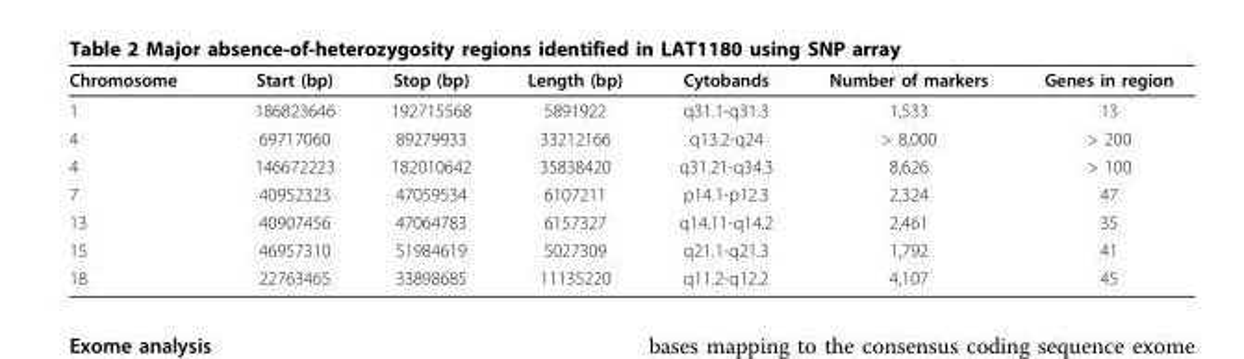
<table><thead><tr><td>Chromosome</td><td>Start (bp)</td><td>Stop (bp)</td><td>Length (bp)</td><td>Cytobands</td><td>Number of markers</td><td>Genes in region</td></tr></thead><tbody><tr><td>1</td><td>186823646</td><td>192715568</td><td>5891922</td><td>q31.1-q31.3</td><td>1,533</td><td>13</td></tr><tr><td>4</td><td>69717060</td><td>89279933</td><td>33212166</td><td>q13.2-q24</td><td>&gt; 8,000</td><td>&gt; 200</td></tr><tr><td>4</td><td>146672223</td><td>182010642</td><td>35838420</td><td>q31.21-q34.3</td><td>8,626</td><td>&gt; 100</td></tr><tr><td>7</td><td>40952323</td><td>47059534</td><td>6107211</td><td>p14.1-p12.3</td><td>2,324</td><td>47</td></tr><tr><td>13</td><td>40907456</td><td>47064783</td><td>6157327</td><td>q14.11-q14.2</td><td>2,461</td><td>35</td></tr><tr><td>15</td><td>46957310</td><td>51984619</td><td>5027309</td><td>q21.1-q21.3</td><td>1,792</td><td>41</td></tr><tr><td>18</td><td>22763465</td><td>33898685</td><td>11135220</td><td>q11.2-q12.2</td><td>4,107</td><td>45</td></tr></tbody></table>